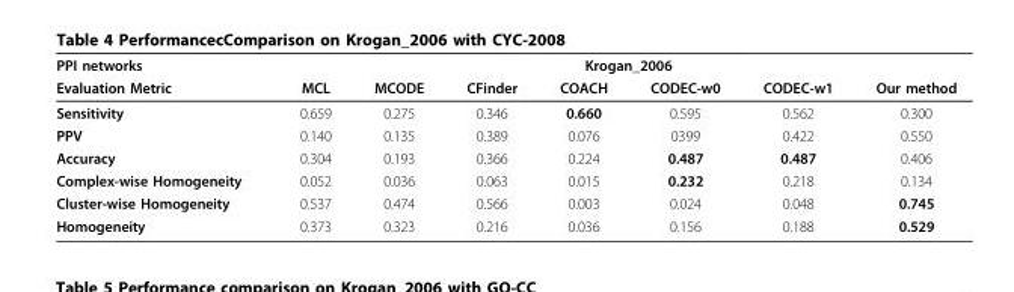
<table><thead><tr><td rowspan="2">PPI networks Evaluation Metric</td><td colspan="7">Krogan_2006</td></tr><tr><td>MCL</td><td>MCODE</td><td>CFinder</td><td>COACH</td><td>CODEC-w0</td><td>CODEC-w1</td><td>Our method</td></tr></thead><tbody><tr><td>Sensitivity</td><td>0.659</td><td>0.275</td><td>0.346</td><td>0.660</td><td>0.595</td><td>0.562</td><td>0.300</td></tr><tr><td>PPV</td><td>0.140</td><td>0.135</td><td>0.389</td><td>0.076</td><td>0399</td><td>0.422</td><td>0.550</td></tr><tr><td>Accuracy</td><td>0.304</td><td>0.193</td><td>0.366</td><td>0.224</td><td>0.487</td><td>0.487</td><td>0.406</td></tr><tr><td>Complex-wise Homogeneity</td><td>0.052</td><td>0.036</td><td>0.063</td><td>0.015</td><td>0.232</td><td>0.218</td><td>0.134</td></tr><tr><td>Cluster-wise Homogeneity</td><td>0.537</td><td>0.474</td><td>0.566</td><td>0.003</td><td>0.024</td><td>0.048</td><td>0.745</td></tr><tr><td>Homogeneity</td><td>0.373</td><td>0.323</td><td>0.216</td><td>0.036</td><td>0.156</td><td>0.188</td><td>0.529</td></tr></tbody></table>